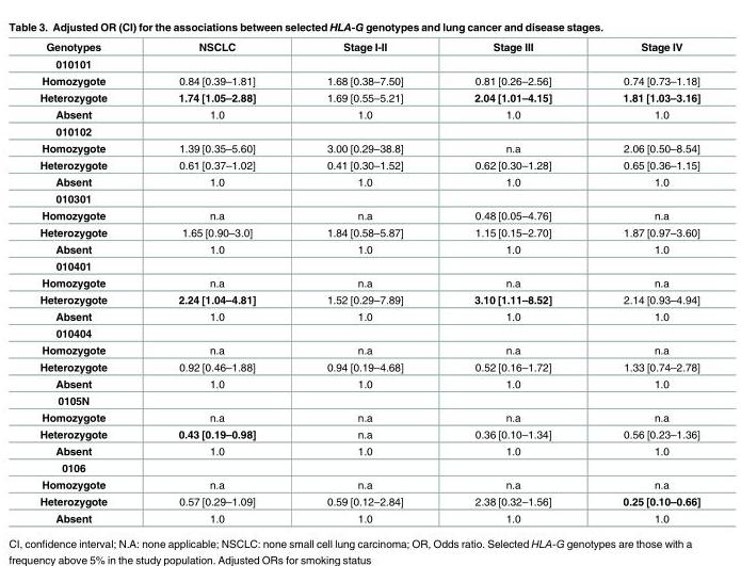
<table><thead><tr><td>Genotypes</td><td>NSCLC</td><td>Stage I-II</td><td>Stage III</td><td>Stage IV</td></tr></thead><tbody><tr><td colspan="5">010101</td></tr><tr><td>Homozygote</td><td>0.84 [0.39–1.81]</td><td>1.68 [0.38–7.50]</td><td>0.81 [0.26–2.56]</td><td>0.74 [0.73–1.18]</td></tr><tr><td>Heterozygote</td><td>1.74 [1.05–2.88]</td><td>1.69 [0.55–5.21]</td><td>2.04 [1.01–4.15]</td><td>1.81 [1.03–3.16]</td></tr><tr><td>Absent</td><td>1.0</td><td>1.0</td><td>1.0</td><td>1.0</td></tr><tr><td colspan="5">010102</td></tr><tr><td>Homozygote</td><td>1.39 [0.35–5.60]</td><td>3.00 [0.29–38.8]</td><td>n.a</td><td>2.06 [0.50–8.54]</td></tr><tr><td>Heterozygote</td><td>0.61 [0.37–1.02]</td><td>0.41 [0.30–1.52]</td><td>0.62 [0.30–1.28]</td><td>0.65 [0.36–1.15]</td></tr><tr><td>Absent</td><td>1.0</td><td>1.0</td><td>1.0</td><td>1.0</td></tr><tr><td colspan="5">010301</td></tr><tr><td>Homozygote</td><td>n.a</td><td>n.a</td><td>0.48 [0.05–4.76]</td><td>n.a</td></tr><tr><td>Heterozygote</td><td>1.65 [0.90–3.0]</td><td>1.84 [0.58–5.87]</td><td>1.15 [0.15–2.70]</td><td>1.87 [0.97–3.60]</td></tr><tr><td>Absent</td><td>1.0</td><td>1.0</td><td>1.0</td><td>1.0</td></tr><tr><td colspan="5">010401</td></tr><tr><td>Homozygote</td><td>n.a</td><td>n.a</td><td>n.a</td><td>n.a</td></tr><tr><td>Heterozygote</td><td>2.24 [1.04–4.81]</td><td>1.52 [0.29–7.89]</td><td>3.10 [1.11–8.52]</td><td>2.14 [0.93–4.94]</td></tr><tr><td>Absent</td><td>1.0</td><td>1.0</td><td>1.0</td><td>1.0</td></tr><tr><td colspan="5">010404</td></tr><tr><td>Homozygote</td><td>n.a</td><td>n.a</td><td>n.a</td><td>n.a</td></tr><tr><td>Heterozygote</td><td>0.92 [0.46–1.88]</td><td>0.94 [0.19–4.68]</td><td>0.52 [0.16–1.72]</td><td>1.33 [0.74–2.78]</td></tr><tr><td>Absent</td><td>1.0</td><td>1.0</td><td>1.0</td><td>1.0</td></tr><tr><td colspan="5">0105N</td></tr><tr><td>Homozygote</td><td>n.a</td><td>n.a</td><td>n.a</td><td>n.a</td></tr><tr><td>Heterozygote</td><td>0.43 [0.19–0.98]</td><td>n.a</td><td>0.36 [0.10–1.34]</td><td>0.56 [0.23–1.36]</td></tr><tr><td>Absent</td><td>1.0</td><td>1.0</td><td>1.0</td><td>1.0</td></tr><tr><td colspan="5">0106</td></tr><tr><td>Homozygote</td><td>n.a</td><td>n.a</td><td>n.a</td><td>n.a</td></tr><tr><td>Heterozygote</td><td>0.57 [0.29–1.09]</td><td>0.59 [0.12–2.84]</td><td>2.38 [0.32–1.56]</td><td>0.25 [0.10–0.66]</td></tr><tr><td>Absent</td><td>1.0</td><td>1.0</td><td>1.0</td><td>1.0</td></tr></tbody></table>